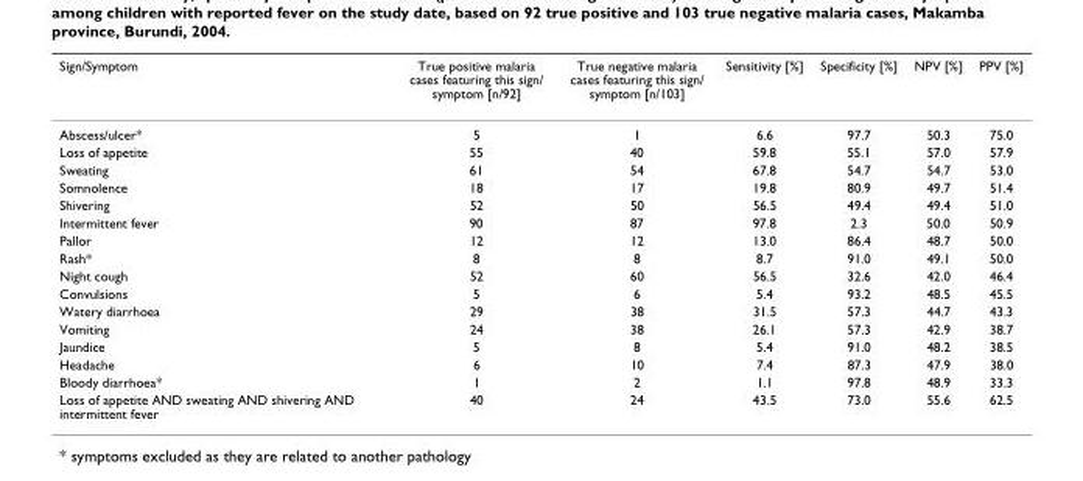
<table><thead><tr><td>Sign/Symptom</td><td>True positive malaria cases featuring this sign/ symptom [n/92]</td><td>True negative malaria cases featuring this sign/ symptom [n/103]</td><td>Sensitivity [%]</td><td>Specificity [%]</td><td>NPV [%]</td><td>PPV [%]</td></tr></thead><tbody><tr><td>Abscess/ulcer*</td><td>5</td><td>1</td><td>6.6</td><td>97.7</td><td>50.3</td><td>75.0</td></tr><tr><td>Loss of appetite</td><td>55</td><td>40</td><td>59.8</td><td>55.1</td><td>57.0</td><td>57.9</td></tr><tr><td>Sweating</td><td>61</td><td>54</td><td>67.8</td><td>54.7</td><td>54.7</td><td>53.0</td></tr><tr><td>Somnolence</td><td>18</td><td>17</td><td>19.8</td><td>80.9</td><td>49.7</td><td>51.4</td></tr><tr><td>Shivering</td><td>52</td><td>50</td><td>56.5</td><td>49.4</td><td>49.4</td><td>51.0</td></tr><tr><td>Intermittent fever</td><td>90</td><td>87</td><td>97.8</td><td>2.3</td><td>50.0</td><td>50.9</td></tr><tr><td>Pallor</td><td>12</td><td>12</td><td>13.0</td><td>86.4</td><td>48.7</td><td>50.0</td></tr><tr><td>Rash*</td><td>8</td><td>8</td><td>8.7</td><td>91.0</td><td>49.1</td><td>50.0</td></tr><tr><td>Night cough</td><td>52</td><td>60</td><td>56.5</td><td>32.6</td><td>42.0</td><td>46.4</td></tr><tr><td>Convulsions</td><td>5</td><td>6</td><td>5.4</td><td>93.2</td><td>48.5</td><td>45.5</td></tr><tr><td>Watery diarrhoea</td><td>29</td><td>38</td><td>31.5</td><td>57.3</td><td>44.7</td><td>43.3</td></tr><tr><td>Vomiting</td><td>24</td><td>38</td><td>26.1</td><td>57.3</td><td>42.9</td><td>38.7</td></tr><tr><td>Jaundice</td><td>5</td><td>8</td><td>5.4</td><td>91.0</td><td>48.2</td><td>38.5</td></tr><tr><td>Headache</td><td>6</td><td>10</td><td>7.4</td><td>87.3</td><td>47.9</td><td>38.0</td></tr><tr><td>Bloody diarrhoea*</td><td>1</td><td>2</td><td>1.1</td><td>97.8</td><td>48.9</td><td>33.3</td></tr><tr><td>Loss of appetite AND sweating AND shivering AND intermittent fever</td><td>40</td><td>24</td><td>43.5</td><td>73.0</td><td>55.6</td><td>62.5</td></tr></tbody></table>